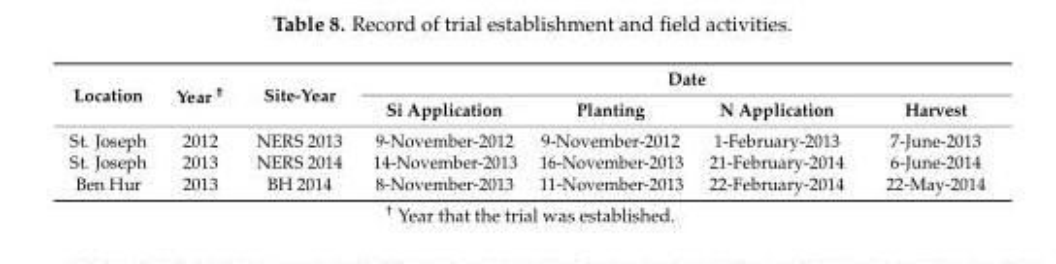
<table><thead><tr><td rowspan="2">Location</td><td rowspan="2">Year <sup>†</sup></td><td rowspan="2">Site-Year</td><td colspan="4">Date</td></tr><tr><td>Si Application</td><td>Planting</td><td>N Application</td><td>Harvest</td></tr></thead><tbody><tr><td>St. Joseph</td><td>2012</td><td>NERS 2013</td><td>9-November-2012</td><td>9-November-2012</td><td>1-February-2013</td><td>7-June-2013</td></tr><tr><td>St. Joseph</td><td>2013</td><td>NERS 2014</td><td>14-November-2013</td><td>16-November-2013</td><td>21-February-2014</td><td>6-June-2014</td></tr><tr><td>Ben Hur</td><td>2013</td><td>BH 2014</td><td>8-November-2013</td><td>11-November-2013</td><td>22-February-2014</td><td>22-May-2014</td></tr></tbody></table>